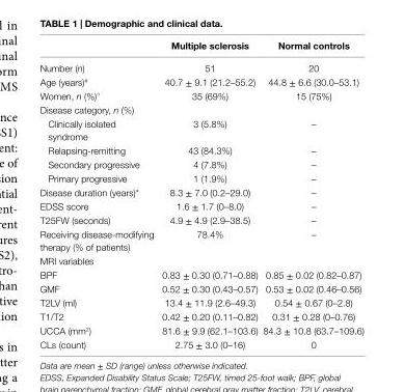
<table><thead><tr><td></td><td>Multiple sclerosis</td><td>normal controls</td></tr></thead><tbody><tr><td>Number (n)</td><td>51</td><td>20</td></tr><tr><td>Age (years)<sup>#</sup></td><td>40.7 ± 9.1 (21.2–55.2)</td><td>44.8 ± 6.6 (30.0–53.1)</td></tr><tr><td>Women, n (%)<sup>^</sup></td><td>35 (69%)</td><td>15 (75%)</td></tr><tr><td colspan="3">Disease category, n (%)</td></tr><tr><td>Clinically isolated syndrome</td><td>3 (5.8%)</td><td>–</td></tr><tr><td>Relapsing-remitting</td><td>43 (84.3%)</td><td>–</td></tr><tr><td>Secondary progressive</td><td>4 (7.8%)</td><td>–</td></tr><tr><td>Primary progressive</td><td>1 (1.9%)</td><td>–</td></tr><tr><td>Disease duration (years)*</td><td>8.3 ± 7.0 (0.2–29.0)</td><td>–</td></tr><tr><td>EDSS score</td><td>1.6 ± 1.7 (0–8.0)</td><td>–</td></tr><tr><td>T25FW (seconds)</td><td>4.9 ± 4.9 (2.9–38.5)</td><td>–</td></tr><tr><td>Receiving disease-modifying therapy (% of patients)</td><td>78.4%</td><td>–</td></tr><tr><td colspan="3">MRI variables</td></tr><tr><td>BPF</td><td>0.83 ± 0.30 (0.71–0.88)</td><td>0.85 ± 0.02 (0.82–0.87)</td></tr><tr><td>GMF</td><td>0.52 ± 0.30 (0.43–0.57)</td><td>0.53 ± 0.02 (0.46–0.56)</td></tr><tr><td>T2LV (ml)</td><td>13.4 ± 11.9 (2.6–49.3)</td><td>0.54 ± 0.67 (0–2.8)</td></tr><tr><td>T1/T2</td><td>0.42 ± 0.20 (0.11–0.82)</td><td>0.31 ± 0.28 (0–0.76)</td></tr><tr><td>UCCA (mm<sup>2</sup>)</td><td>81.6 ± 9.9 (62.1–103.6)</td><td>84.3 ± 10.8 (63.7–109.6)</td></tr><tr><td>CLs (count)</td><td>2.75 ± 3.0 (0–16)</td><td>0</td></tr></tbody></table>